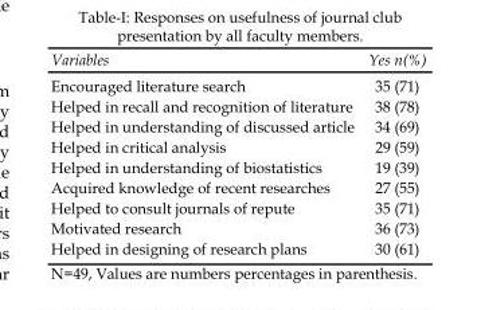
<table><thead><tr><td>Variables</td><td>Yes n(%)</td></tr></thead><tbody><tr><td>Encouraged literature search</td><td>35 (71)</td></tr><tr><td>Helped in recall and recognition of literature</td><td>38 (78)</td></tr><tr><td>Helped in understanding of discussed article</td><td>34 (69)</td></tr><tr><td>Helped in critical analysis</td><td>29 (59)</td></tr><tr><td>Helped in understanding of biostatistics</td><td>19 (39)</td></tr><tr><td>Acquired knowledge of recent researches</td><td>27 (55)</td></tr><tr><td>Helped to consult journals of repute</td><td>35 (71)</td></tr><tr><td>Motivated research</td><td>36 (73)</td></tr><tr><td>Helped in designing of research plans</td><td>30 (61)</td></tr></tbody></table>